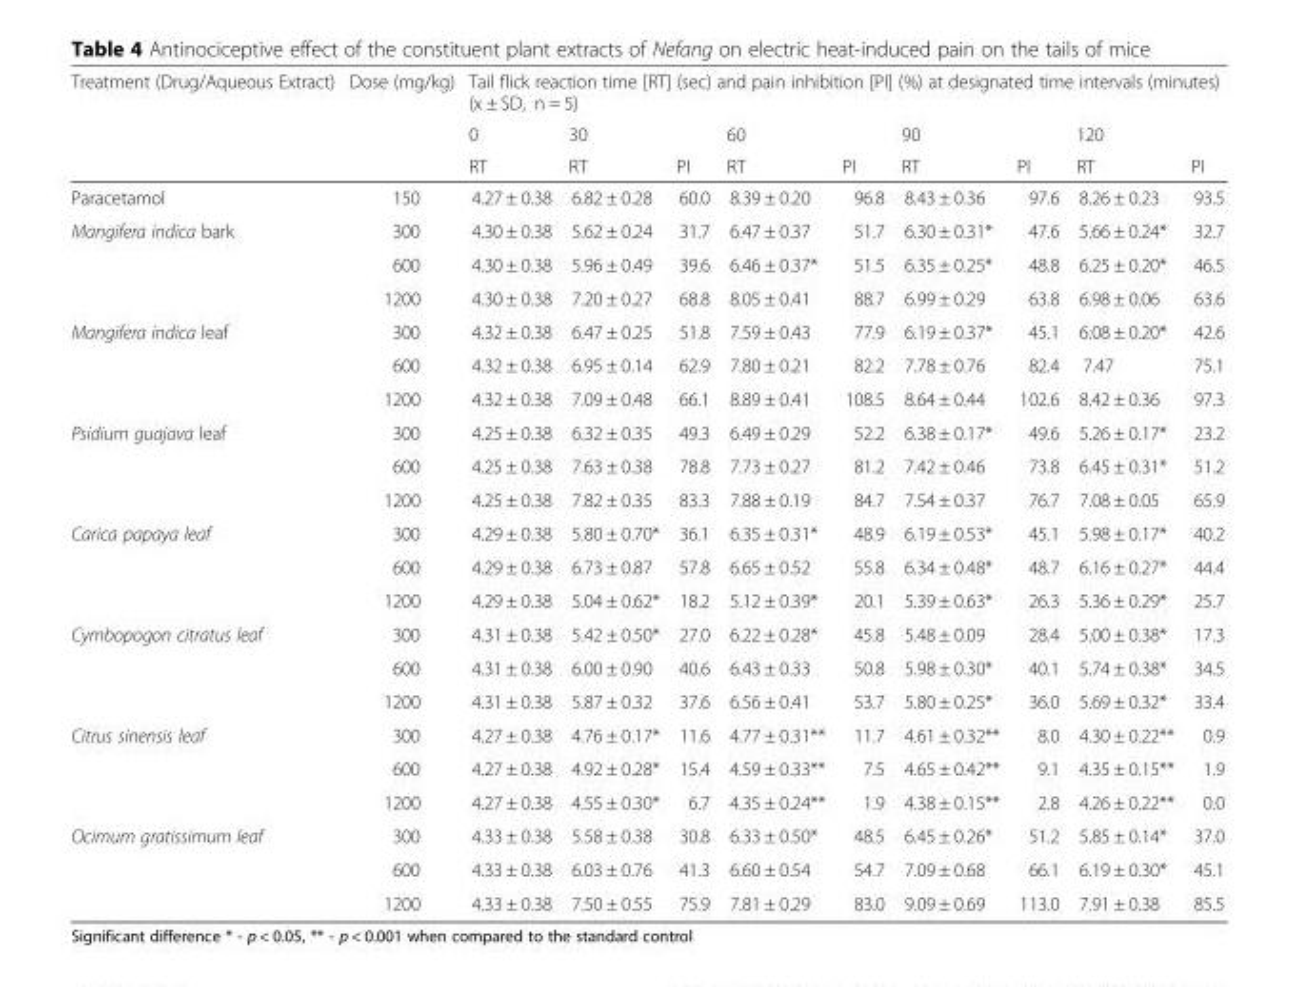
<table><thead><tr><td rowspan="3">Treatment (Drug/Aqueous Extract)</td><td rowspan="3">Dose (mg/kg)</td><td colspan="9">Tail flick reaction time [RT] (sec) and pain inhibition [PI] (%) at designated time intervals (minutes) (x ± SD, n = 5)</td></tr><tr><td rowspan="2">0 RT</td><td rowspan="2">30 RT</td><td rowspan="2">PI</td><td rowspan="2">60 RT</td><td rowspan="2">PI</td><td rowspan="2">90 RT</td><td rowspan="2">PI</td><td rowspan="2">120 RT</td><td rowspan="2">PI</td></tr><tr></tr></thead><tbody><tr><td>Paracetamol</td><td>150</td><td>4.27 ± 0.38</td><td>6.82 ± 0.28</td><td>60.0</td><td>8.39 ± 0.20</td><td>96.8</td><td>8.43 ± 0.36</td><td>97.6</td><td>8.26 ± 0.23</td><td>93.5</td></tr><tr><td rowspan="3">Mangifera indica bark</td><td>300</td><td>4.30 ± 0.38</td><td>5.62 ± 0.24</td><td>31.7</td><td>6.47 ± 0.37</td><td>51.7</td><td>6.30 ± 0.31*</td><td>47.6</td><td>5.66 ± 0.24*</td><td>32.7</td></tr><tr><td>600</td><td>4.30 ± 0.38</td><td>5.96 ± 0.49</td><td>39.6</td><td>6.46 ± 0.37*</td><td>51.5</td><td>6.35 ± 0.25*</td><td>48.8</td><td>6.25 ± 0.20*</td><td>46.5</td></tr><tr><td>1200</td><td>4.30 ± 0.38</td><td>7.20 ± 0.27</td><td>68.8</td><td>8.05 ± 0.41</td><td>88.7</td><td>6.99 ± 0.29</td><td>63.8</td><td>6.98 ± 0.06</td><td>63.6</td></tr><tr><td rowspan="3">Mangifera indica leaf</td><td>300</td><td>4.32 ± 0.38</td><td>6.47 ± 0.25</td><td>51.8</td><td>7.59 ± 0.43</td><td>77.9</td><td>6.19 ± 0.37*</td><td>45.1</td><td>6.08 ± 0.20*</td><td>42.6</td></tr><tr><td>600</td><td>4.32 ± 0.38</td><td>6.95 ± 0.14</td><td>62.9</td><td>7.80 ± 0.21</td><td>82.2</td><td>7.78 ± 0.76</td><td>82.4</td><td>7.47</td><td>75.1</td></tr><tr><td>1200</td><td>4.32 ± 0.38</td><td>7.09 ± 0.48</td><td>66.1</td><td>8.89 ± 0.41</td><td>108.5</td><td>8.64 ± 0.44</td><td>102.6</td><td>8.42 ± 0.36</td><td>97.3</td></tr><tr><td rowspan="3">Psidium guajava leaf</td><td>300</td><td>4.25 ± 0.38</td><td>6.32 ± 0.35</td><td>49.3</td><td>6.49 ± 0.29</td><td>52.2</td><td>6.38 ± 0.17*</td><td>49.6</td><td>5.26 ± 0.17*</td><td>23.2</td></tr><tr><td>600</td><td>4.25 ± 0.38</td><td>7.63 ± 0.38</td><td>78.8</td><td>7.73 ± 0.27</td><td>81.2</td><td>7.42 ± 0.46</td><td>73.8</td><td>6.45 ± 0.31*</td><td>51.2</td></tr><tr><td>1200</td><td>4.25 ± 0.38</td><td>7.82 ± 0.35</td><td>83.3</td><td>7.88 ± 0.19</td><td>84.7</td><td>7.54 ± 0.37</td><td>76.7</td><td>7.08 ± 0.05</td><td>65.9</td></tr><tr><td rowspan="3">Carica papaya leaf</td><td>300</td><td>4.29 ± 0.38</td><td>5.80 ± 0.70*</td><td>36.1</td><td>6.35 ± 0.31*</td><td>48.9</td><td>6.19 ± 0.53*</td><td>45.1</td><td>5.98 ± 0.17*</td><td>40.2</td></tr><tr><td>600</td><td>4.29 ± 0.38</td><td>6.73 ± 0.87</td><td>57.8</td><td>6.65 ± 0.52</td><td>55.8</td><td>6.34 ± 0.48*</td><td>48.7</td><td>6.16 ± 0.27*</td><td>44.4</td></tr><tr><td>1200</td><td>4.29 ± 0.38</td><td>5.04 ± 0.62*</td><td>18.2</td><td>5.12 ± 0.39*</td><td>20.1</td><td>5.39 ± 0.63*</td><td>26.3</td><td>5.36 ± 0.29*</td><td>25.7</td></tr><tr><td rowspan="3">Cymbopogon citratus leaf</td><td>300</td><td>4.31 ± 0.38</td><td>5.42 ± 0.50*</td><td>27.0</td><td>6.22 ± 0.28*</td><td>45.8</td><td>5.48 ± 0.09</td><td>28.4</td><td>5.00 ± 0.38*</td><td>17.3</td></tr><tr><td>600</td><td>4.31 ± 0.38</td><td>6.00 ± 0.90</td><td>40.6</td><td>6.43 ± 0.33</td><td>50.8</td><td>5.98 ± 0.30*</td><td>40.1</td><td>5.74 ± 0.38*</td><td>34.5</td></tr><tr><td>1200</td><td>4.31 ± 0.38</td><td>5.87 ± 0.32</td><td>37.6</td><td>6.56 ± 0.41</td><td>53.7</td><td>5.80 ± 0.25*</td><td>36.0</td><td>5.69 ± 0.32*</td><td>33.4</td></tr><tr><td rowspan="3">Citrus sinensis leaf</td><td>300</td><td>4.27 ± 0.38</td><td>4.76 ± 0.17*</td><td>11.6</td><td>4.77 ± 0.31**</td><td>11.7</td><td>4.61 ± 0.32**</td><td>8.0</td><td>4.30 ± 0.22**</td><td>0.9</td></tr><tr><td>600</td><td>4.27 ± 0.38</td><td>4.92 ± 0.28*</td><td>15.4</td><td>4.59 ± 0.33**</td><td>7.5</td><td>4.65 ± 0.42**</td><td>9.1</td><td>4.35 ± 0.15**</td><td>1.9</td></tr><tr><td>1200</td><td>4.27 ± 0.38</td><td>4.55 ± 0.30*</td><td>6.7</td><td>4.35 ± 0.24**</td><td>1.9</td><td>4.38 ± 0.15**</td><td>2.8</td><td>4.26 ± 0.22**</td><td>0.0</td></tr><tr><td rowspan="3">Ocimum gratissimum leaf</td><td>300</td><td>4.33 ± 0.38</td><td>5.58 ± 0.38</td><td>30.8</td><td>6.33 ± 0.50*</td><td>48.5</td><td>6.45 ± 0.26*</td><td>51.2</td><td>5.85 ± 0.14*</td><td>37.0</td></tr><tr><td>600</td><td>4.33 ± 0.38</td><td>6.03 ± 0.76</td><td>41.3</td><td>6.60 ± 0.54</td><td>54.7</td><td>7.09 ± 0.68</td><td>66.1</td><td>6.19 ± 0.30*</td><td>45.1</td></tr><tr><td>1200</td><td>4.33 ± 0.38</td><td>7.50 ± 0.55</td><td>75.9</td><td>7.81 ± 0.29</td><td>83.0</td><td>9.09 ± 0.69</td><td>113.0</td><td>7.91 ± 0.38</td><td>85.5</td></tr></tbody></table>